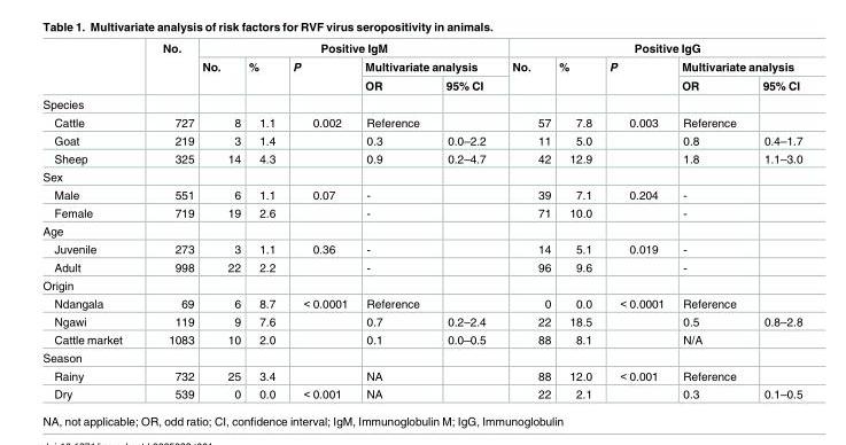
<table><thead><tr><td rowspan="3"></td><td rowspan="3">No.</td><td colspan="5">Positive IgM</td><td colspan="5">Positive IgG</td></tr><tr><td rowspan="2">No.</td><td rowspan="2">%</td><td rowspan="2">P</td><td colspan="2">Multivariate analysis</td><td rowspan="2">No.</td><td rowspan="2">%</td><td rowspan="2">P</td><td colspan="2">Multivariate analysis</td></tr><tr><td>OR</td><td>95% CI</td><td>OR</td><td>95% CI</td></tr></thead><tbody><tr><td colspan="12">Species</td></tr><tr><td>Cattle</td><td>727</td><td>8</td><td>1.1</td><td>0.002</td><td>Reference</td><td></td><td>57</td><td>7.8</td><td>0.003</td><td>Reference</td><td></td></tr><tr><td>Goat</td><td>219</td><td>3</td><td>1.4</td><td></td><td>0.3</td><td>0.0–2.2</td><td>11</td><td>5.0</td><td></td><td>0.8</td><td>0.4–1.7</td></tr><tr><td>Sheep</td><td>325</td><td>14</td><td>4.3</td><td></td><td>0.9</td><td>0.2–4.7</td><td>42</td><td>12.9</td><td></td><td>1.8</td><td>1.1–3.0</td></tr><tr><td colspan="12">Sex</td></tr><tr><td>Male</td><td>551</td><td>6</td><td>1.1</td><td>0.07</td><td>-</td><td></td><td>39</td><td>7.1</td><td>0.204</td><td>-</td><td></td></tr><tr><td>Female</td><td>719</td><td>19</td><td>2.6</td><td></td><td>-</td><td></td><td>71</td><td>10.0</td><td></td><td>-</td><td></td></tr><tr><td colspan="12">Age</td></tr><tr><td>Juvenile</td><td>273</td><td>3</td><td>1.1</td><td>0.36</td><td>-</td><td></td><td>14</td><td>5.1</td><td>0.019</td><td>-</td><td></td></tr><tr><td>Adult</td><td>998</td><td>22</td><td>2.2</td><td></td><td>-</td><td></td><td>96</td><td>9.6</td><td></td><td>-</td><td></td></tr><tr><td colspan="12">Origin</td></tr><tr><td>Ndangala</td><td>69</td><td>6</td><td>8.7</td><td>&lt; 0.0001</td><td>Reference</td><td></td><td>0</td><td>0.0</td><td>&lt; 0.0001</td><td>Reference</td><td></td></tr><tr><td>Ngawi</td><td>119</td><td>9</td><td>7.6</td><td></td><td>0.7</td><td>0.2–2.4</td><td>22</td><td>18.5</td><td></td><td>0.5</td><td>0.8–2.8</td></tr><tr><td>Cattle market</td><td>1083</td><td>10</td><td>2.0</td><td></td><td>0.1</td><td>0.0–0.5</td><td>88</td><td>8.1</td><td></td><td>N/A</td><td></td></tr><tr><td colspan="12">Season</td></tr><tr><td>Rainy</td><td>732</td><td>25</td><td>3.4</td><td></td><td>NA</td><td></td><td>88</td><td>12.0</td><td>&lt; 0.001</td><td>Reference</td><td></td></tr><tr><td>Dry</td><td>539</td><td>0</td><td>0.0</td><td>&lt; 0.001</td><td>NA</td><td></td><td>22</td><td>2.1</td><td></td><td>0.3</td><td>0.1–0.5</td></tr></tbody></table>